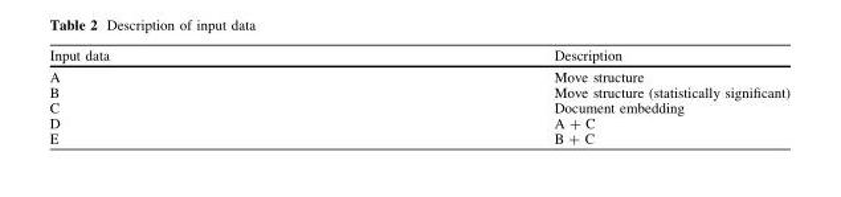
<table><thead><tr><td>Input data</td><td>Description</td></tr></thead><tbody><tr><td>A</td><td>Move structure</td></tr><tr><td>B</td><td>Move structure (statistically significant)</td></tr><tr><td>C</td><td>Document embedding</td></tr><tr><td>D</td><td>A + C</td></tr><tr><td>E</td><td>B + C</td></tr></tbody></table>